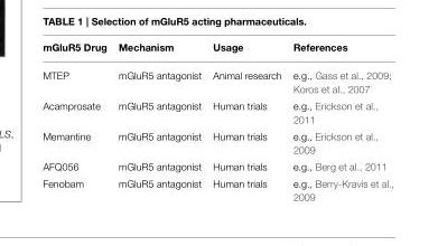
<table><thead><tr><td>mGluR5 Drug</td><td>Mechanism</td><td>Usage</td><td>References</td></tr></thead><tbody><tr><td>MTEP</td><td>mGluR5 antagonist</td><td>Animal research</td><td>e.g., Gass et al., 2009; Koros et al., 2007</td></tr><tr><td>Acamprosate</td><td>mGluR5 antagonist</td><td>Human trials</td><td>e.g., Erickson et al., 2011</td></tr><tr><td>Memantine</td><td>mGluR5 antagonist</td><td>Human trials</td><td>e.g., Erickson et al., 2009</td></tr><tr><td>AFQ056</td><td>mGluR5 antagonist</td><td>Human trials</td><td>e.g., Berg et al., 2011</td></tr><tr><td>Fenobam</td><td>mGluR5 antagonist</td><td>Human trials</td><td>e.g., Berry-Kravis et al., 2009</td></tr></tbody></table>